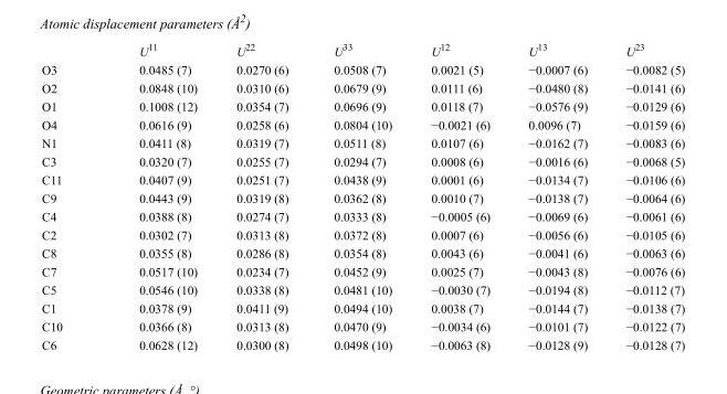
<table><thead><tr><td></td><td>U<sup>11</sup></td><td>U<sup>22</sup></td><td>U<sup>33</sup></td><td>U<sup>12</sup></td><td>U<sup>13</sup></td><td>U<sup>23</sup></td></tr></thead><tbody><tr><td>O3</td><td>0.0485 (7)</td><td>0.0270 (6)</td><td>0.0508 (7)</td><td>0.0021 (5)</td><td>−0.0007 (6)</td><td>−0.0082 (5)</td></tr><tr><td>O2</td><td>0.0848 (10)</td><td>0.0310 (6)</td><td>0.0679 (9)</td><td>0.0111 (6)</td><td>−0.0480 (8)</td><td>−0.0141 (6)</td></tr><tr><td>O1</td><td>0.1008 (12)</td><td>0.0354 (7)</td><td>0.0696 (9)</td><td>0.0118 (7)</td><td>−0.0576 (9)</td><td>−0.0129 (6)</td></tr><tr><td>O4</td><td>0.0616 (9)</td><td>0.0258 (6)</td><td>0.0804 (10)</td><td>−0.0021 (6)</td><td>0.0096 (7)</td><td>−0.0159 (6)</td></tr><tr><td>N1</td><td>0.0411 (8)</td><td>0.0319 (7)</td><td>0.0511 (8)</td><td>0.0107 (6)</td><td>−0.0162 (7)</td><td>−0.0083 (6)</td></tr><tr><td>C3</td><td>0.0320 (7)</td><td>0.0255 (7)</td><td>0.0294 (7)</td><td>0.0008 (6)</td><td>−0.0016 (6)</td><td>−0.0068 (5)</td></tr><tr><td>C11</td><td>0.0407 (9)</td><td>0.0251 (7)</td><td>0.0438 (9)</td><td>0.0001 (6)</td><td>−0.0134 (7)</td><td>−0.0106 (6)</td></tr><tr><td>C9</td><td>0.0443 (9)</td><td>0.0319 (8)</td><td>0.0362 (8)</td><td>0.0010 (7)</td><td>−0.0138 (7)</td><td>−0.0064 (6)</td></tr><tr><td>C4</td><td>0.0388 (8)</td><td>0.0274 (7)</td><td>0.0333 (8)</td><td>−0.0005 (6)</td><td>−0.0069 (6)</td><td>−0.0061 (6)</td></tr><tr><td>C2</td><td>0.0302 (7)</td><td>0.0313 (8)</td><td>0.0372 (8)</td><td>0.0007 (6)</td><td>−0.0056 (6)</td><td>−0.0105 (6)</td></tr><tr><td>C8</td><td>0.0355 (8)</td><td>0.0286 (8)</td><td>0.0354 (8)</td><td>0.0043 (6)</td><td>−0.0041 (6)</td><td>−0.0063 (6)</td></tr><tr><td>C7</td><td>0.0517 (10)</td><td>0.0234 (7)</td><td>0.0452 (9)</td><td>0.0025 (7)</td><td>−0.0043 (8)</td><td>−0.0076 (6)</td></tr><tr><td>C5</td><td>0.0546 (10)</td><td>0.0338 (8)</td><td>0.0481 (10)</td><td>−0.0030 (7)</td><td>−0.0194 (8)</td><td>−0.0112 (7)</td></tr><tr><td>C1</td><td>0.0378 (9)</td><td>0.0411 (9)</td><td>0.0494 (10)</td><td>0.0038 (7)</td><td>−0.0144 (7)</td><td>−0.0138 (7)</td></tr><tr><td>C10</td><td>0.0366 (8)</td><td>0.0313 (8)</td><td>0.0470 (9)</td><td>−0.0034 (6)</td><td>−0.0101 (7)</td><td>−0.0122 (7)</td></tr><tr><td>C6</td><td>0.0628 (12)</td><td>0.0300 (8)</td><td>0.0498 (10)</td><td>−0.0063 (8)</td><td>−0.0128 (9)</td><td>−0.0128 (7)</td></tr></tbody></table>